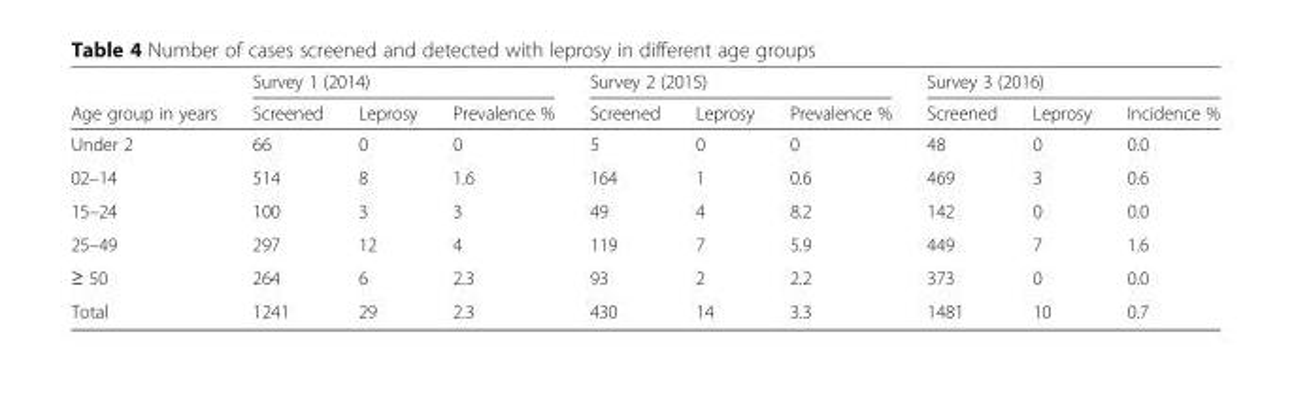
<table><thead><tr><td rowspan="2">Age group in years</td><td colspan="3">Survey 1 (2014)</td><td colspan="3">Survey 2 (2015)</td><td colspan="3">Survey 3 (2016)</td></tr><tr><td>Screened</td><td>Leprosy</td><td>Prevalence %</td><td>Screened</td><td>Leprosy</td><td>Prevalence %</td><td>Screened</td><td>Leprosy</td><td>Incidence %</td></tr></thead><tbody><tr><td>Under 2</td><td>66</td><td>0</td><td>0</td><td>5</td><td>0</td><td>0</td><td>48</td><td>0</td><td>0.0</td></tr><tr><td>02–14</td><td>514</td><td>8</td><td>1.6</td><td>164</td><td>1</td><td>0.6</td><td>469</td><td>3</td><td>0.6</td></tr><tr><td>15–24</td><td>100</td><td>3</td><td>3</td><td>49</td><td>4</td><td>8.2</td><td>142</td><td>0</td><td>0.0</td></tr><tr><td>25–49</td><td>297</td><td>12</td><td>4</td><td>119</td><td>7</td><td>5.9</td><td>449</td><td>7</td><td>1.6</td></tr><tr><td>≥ 50</td><td>264</td><td>6</td><td>2.3</td><td>93</td><td>2</td><td>2.2</td><td>373</td><td>0</td><td>0.0</td></tr><tr><td>Total</td><td>1241</td><td>29</td><td>2.3</td><td>430</td><td>14</td><td>3.3</td><td>1481</td><td>10</td><td>0.7</td></tr></tbody></table>